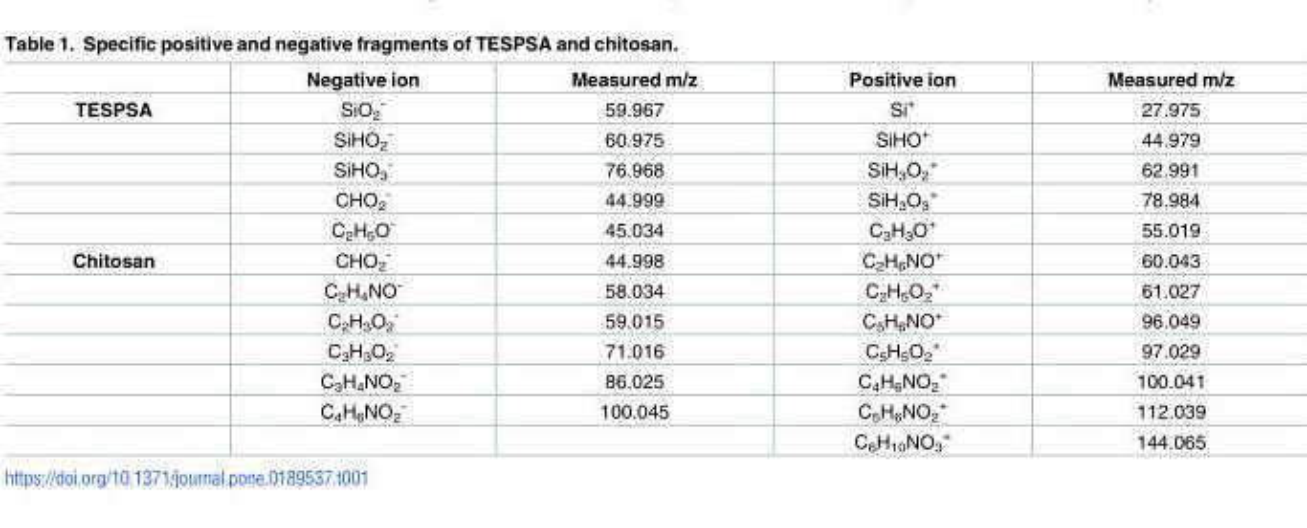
<table><thead><tr><td></td><td>Negative ion</td><td>Measured m/z</td><td>Positive ion</td><td>Measured m/z</td></tr></thead><tbody><tr><td rowspan="5">TESPSA</td><td>SiO<sub>2</sub> <sup>-</sup></td><td>59.967</td><td>Si<sup>+</sup></td><td>27.975</td></tr><tr><td>SiHO<sub>2</sub> <sup>-</sup></td><td>60.975</td><td>SiHO<sup>+</sup></td><td>44.979</td></tr><tr><td>SiHO<sub>3</sub> <sup>-</sup></td><td>76.968</td><td>SiH<sub>3</sub>O<sub>2</sub> <sup>+</sup></td><td>62.991</td></tr><tr><td>CHO<sub>2</sub> <sup>-</sup></td><td>44.999</td><td>SiH<sub>3</sub>O<sub>3</sub> <sup>+</sup></td><td>78.984</td></tr><tr><td>C<sub>2</sub>H<sub>5</sub>O<sup>-</sup></td><td>45.034</td><td>C<sub>3</sub>H<sub>3</sub>O<sup>+</sup></td><td>55.019</td></tr><tr><td rowspan="7">Chitosan</td><td>CHO<sub>2</sub> <sup>-</sup></td><td>44.998</td><td>C<sub>2</sub>H<sub>6</sub>NO<sup>+</sup></td><td>60.043</td></tr><tr><td>C<sub>2</sub>H<sub>4</sub>NO<sup>-</sup></td><td>58.034</td><td>C<sub>2</sub>H<sub>5</sub>O<sub>2</sub> <sup>+</sup></td><td>61.027</td></tr><tr><td>C<sub>2</sub>H<sub>3</sub>O<sub>2</sub> <sup>-</sup></td><td>59.015</td><td>C<sub>5</sub>H<sub>6</sub>NO<sup>+</sup></td><td>96.049</td></tr><tr><td>C<sub>3</sub>H<sub>3</sub>O<sub>2</sub> <sup>-</sup></td><td>71.016</td><td>C<sub>5</sub>H<sub>5</sub>O<sub>2</sub> <sup>+</sup></td><td>97.029</td></tr><tr><td>C<sub>3</sub>H<sub>4</sub>NO<sub>2</sub> <sup>-</sup></td><td>86.025</td><td>C<sub>4</sub>H<sub>6</sub>NO<sub>2</sub> <sup>+</sup></td><td>100.041</td></tr><tr><td>C<sub>4</sub>H<sub>6</sub>NO<sub>2</sub> <sup>-</sup></td><td>100.045</td><td>C<sub>5</sub>H<sub>6</sub>NO<sub>2</sub> <sup>+</sup></td><td>112.039</td></tr><tr><td></td><td></td><td>C<sub>6</sub>H<sub>10</sub>NO<sub>3</sub> <sup>+</sup></td><td>144.065</td></tr></tbody></table>